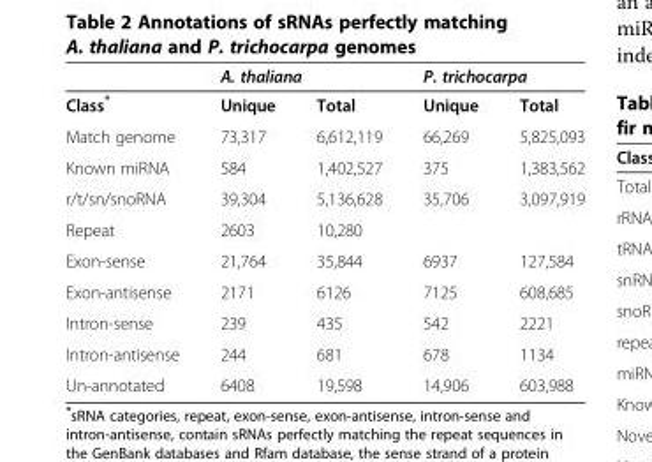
<table><thead><tr><td rowspan="2">Class*</td><td colspan="2">A. thaliana</td><td colspan="2">P. trichocarpa</td></tr><tr><td>Unique</td><td>Total</td><td>Unique</td><td>Total</td></tr></thead><tbody><tr><td>Match genome</td><td>73,317</td><td>6,612,119</td><td>66,269</td><td>5,825,093</td></tr><tr><td>Known miRNA</td><td>584</td><td>1,402,527</td><td>375</td><td>1,383,562</td></tr><tr><td>r/t/sn/snoRNA</td><td>39,304</td><td>5,136,628</td><td>35,706</td><td>3,097,919</td></tr><tr><td>Repeat</td><td>2603</td><td>10,280</td><td></td><td></td></tr><tr><td>Exon-sense</td><td>21,764</td><td>35,844</td><td>6937</td><td>127,584</td></tr><tr><td>Exon-antisense</td><td>2171</td><td>6126</td><td>7125</td><td>608,685</td></tr><tr><td>Intron-sense</td><td>239</td><td>435</td><td>542</td><td>2221</td></tr><tr><td>Intron-antisense</td><td>244</td><td>681</td><td>678</td><td>1134</td></tr><tr><td>Un-annotated</td><td>6408</td><td>19,598</td><td>14,906</td><td>603,988</td></tr></tbody></table>